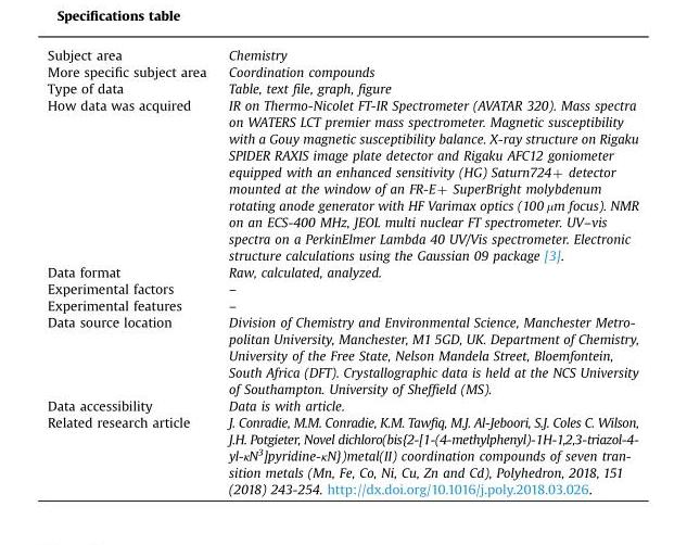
<table><tbody><tr><td>Subject area</td><td>Chemistry</td></tr><tr><td>More specific subject area</td><td>Coordination compounds</td></tr><tr><td>Type of data</td><td>Table, text file, graph, figure</td></tr><tr><td>How data was acquired</td><td>IR on Thermo-Nicolet FT-IR Spectrometer (AVATAR 320). Mass spectra on WATERS LCT premier mass spectrometer. Magnetic susceptibility with a Gouy magnetic susceptibility balance. X-ray structure on Rigaku SPIDER RAXIS image plate detector and Rigaku AFC12 goniometer equipped with an enhanced sensitivity (HG) Saturn724+ detector mounted at the window of an FR-E+ SuperBright molybdenum rotating anode generator with HF Varimax optics (100 µm focus). NMR on an ECS-400 MHz, JEOL multi nuclear FT spectrometer. UV–vis spectra on a PerkinElmer Lambda 40 UV/Vis spectrometer. Electronic structure calculations using the Gaussian 09 package [3].</td></tr><tr><td>Data format</td><td>Raw, calculated, analyzed.</td></tr><tr><td>Experimental factors</td><td>–</td></tr><tr><td>Experimental features</td><td>–</td></tr><tr><td>Data source location</td><td>Division of Chemistry and Environmental Science, Manchester Metro- politan University, Manchester, M1 5GD, UK. Department of Chemistry, University of the Free State, Nelson Mandela Street, Bloemfontein, South Africa (DFT). Crystallographic data is held at the NCS University of Southampton. University of Sheffield (MS).</td></tr><tr><td>Data accessibility</td><td>Data is with article.</td></tr><tr><td>Related research article</td><td>J. Conradie, M.M. Conradie, K.M. Tawfiq, M.J. Al-Jeboori, S.J. Coles C. Wilson, J.H. Potgieter, Novel dichloro(bis{2-[1-(4-methylphenyl)-1H-1,2,3-triazol-4- yl-κN3]pyridine-κN})metal(II) coordination compounds of seven tran- sition metals (Mn, Fe, Co, Ni, Cu, Zn and Cd), Polyhedron, 2018, 151 (2018) 243-254. http://dx.doi.org/10.1016/j.poly.2018.03.026.</td></tr></tbody></table>